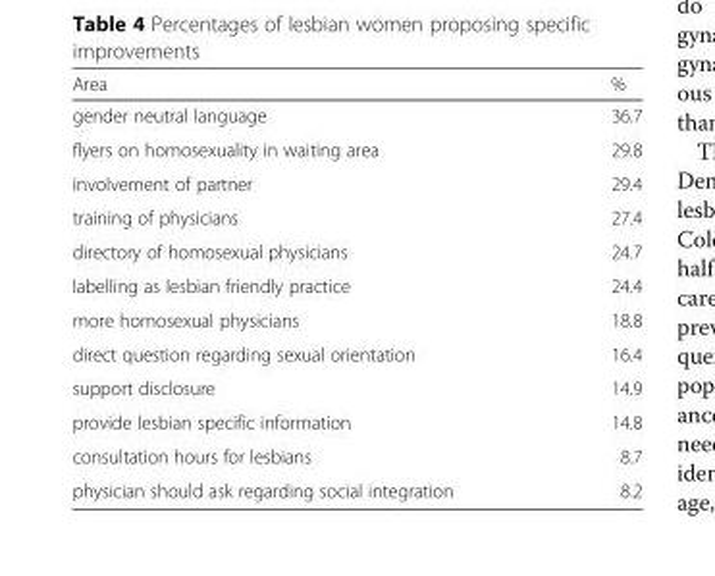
<table><thead><tr><td>Area</td><td>%</td></tr></thead><tbody><tr><td>gender neutral language</td><td>36.7</td></tr><tr><td>flyers on homosexuality in waiting area</td><td>29.8</td></tr><tr><td>involvement of partner</td><td>29.4</td></tr><tr><td>training of physicians</td><td>27.4</td></tr><tr><td>directory of homosexual physicians</td><td>24.7</td></tr><tr><td>labelling as lesbian friendly practice</td><td>24.4</td></tr><tr><td>more homosexual physicians</td><td>18.8</td></tr><tr><td>direct question regarding sexual orientation</td><td>16.4</td></tr><tr><td>support disclosure</td><td>14.9</td></tr><tr><td>provide lesbian specific information</td><td>14.8</td></tr><tr><td>consultation hours for lesbians</td><td>8.7</td></tr><tr><td>physician should ask regarding social integration</td><td>8.2</td></tr></tbody></table>